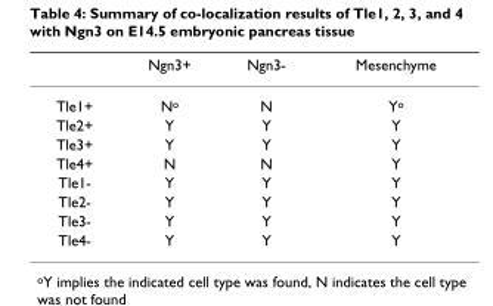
<table><thead><tr><td></td><td>Ngn3+</td><td>Ngn3-</td><td>Mesenchyme</td></tr></thead><tbody><tr><td>Tle1+</td><td>N<sup>o</sup></td><td>N</td><td>Y<sup>o</sup></td></tr><tr><td>Tle2+</td><td>Y</td><td>Y</td><td>Y</td></tr><tr><td>Tle3+</td><td>Y</td><td>Y</td><td>Y</td></tr><tr><td>Tle4+</td><td>N</td><td>N</td><td>Y</td></tr><tr><td>Tle1-</td><td>Y</td><td>Y</td><td>Y</td></tr><tr><td>Tle2-</td><td>Y</td><td>Y</td><td>Y</td></tr><tr><td>Tle3-</td><td>Y</td><td>Y</td><td>Y</td></tr><tr><td>Tle4-</td><td>Y</td><td>Y</td><td>Y</td></tr></tbody></table>